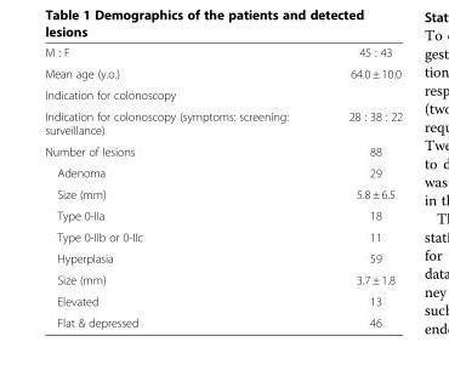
<table><tbody><tr><td>M : F</td><td>45 : 43</td></tr><tr><td>Mean age (y.o.)</td><td>64.0 ± 10.0</td></tr><tr><td colspan="2">Indication for colonoscopy</td></tr><tr><td>Indication for colonoscopy (symptoms: screening: surveillance)</td><td>28 : 38 : 22</td></tr><tr><td>Number of lesions</td><td>88</td></tr><tr><td>Adenoma</td><td>29</td></tr><tr><td>Size (mm)</td><td>5.8 ± 6.5</td></tr><tr><td>Type 0-IIa</td><td>18</td></tr><tr><td>Type 0-IIb or 0-IIc</td><td>11</td></tr><tr><td>Hyperplasia</td><td>59</td></tr><tr><td>Size (mm)</td><td>3.7 ± 1.8</td></tr><tr><td>Elevated</td><td>13</td></tr><tr><td>Flat &amp; depressed</td><td>46</td></tr></tbody></table>